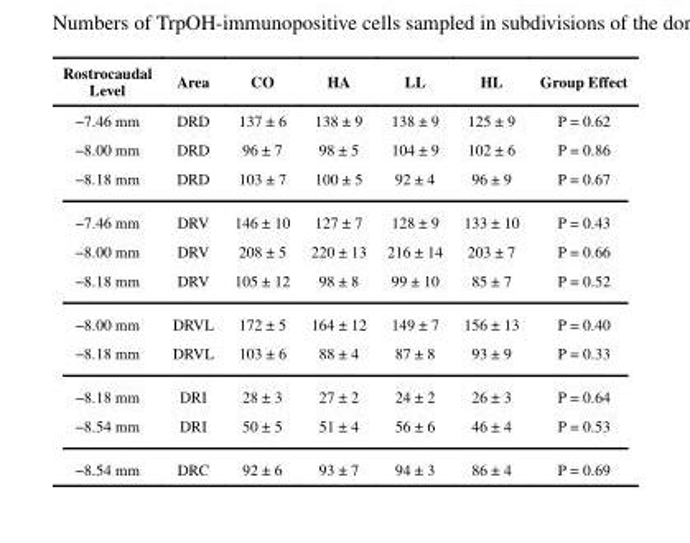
<table><thead><tr><td>Rostrocaudal Level</td><td>Area</td><td>CO</td><td>HA</td><td>LL</td><td>HL</td><td>Group Effect</td></tr></thead><tbody><tr><td>−7.46 mm</td><td>DRD</td><td>137 ± 6</td><td>138 ± 9</td><td>138 ± 9</td><td>125 ± 9</td><td>P = 0.62</td></tr><tr><td>−8.00 mm</td><td>DRD</td><td>96 ± 7</td><td>98 ± 5</td><td>104 ± 9</td><td>102 ± 6</td><td>P = 0.86</td></tr><tr><td>−8.18 mm</td><td>DRD</td><td>103 ± 7</td><td>100 ± 5</td><td>92 ± 4</td><td>96 ± 9</td><td>P = 0.67</td></tr><tr><td>−7.46 mm</td><td>DRV</td><td>146 ± 10</td><td>127 ± 7</td><td>128 ± 9</td><td>133 ± 10</td><td>P = 0.43</td></tr><tr><td>−8.00 mm</td><td>DRV</td><td>208 ± 5</td><td>220 ± 13</td><td>216 ± 14</td><td>203 ± 7</td><td>P = 0.66</td></tr><tr><td>−8.18 mm</td><td>DRV</td><td>105 ± 12</td><td>98 ± 8</td><td>99 ± 10</td><td>85 ± 7</td><td>P = 0.52</td></tr><tr><td>−8.00 mm</td><td>DRVL</td><td>172 ± 5</td><td>164 ± 12</td><td>149 ± 7</td><td>156 ± 13</td><td>P = 0.40</td></tr><tr><td>−8.18 mm</td><td>DRVL</td><td>103 ± 6</td><td>88 ± 4</td><td>87 ± 8</td><td>93 ± 9</td><td>P = 0.33</td></tr><tr><td>−8.18 mm</td><td>DRI</td><td>28 ± 3</td><td>27 ± 2</td><td>24 ± 2</td><td>26 ± 3</td><td>P = 0.64</td></tr><tr><td>−8.54 mm</td><td>DRI</td><td>50 ± 5</td><td>51 ± 4</td><td>56 ± 6</td><td>46 ± 4</td><td>P = 0.53</td></tr><tr><td>−8.54 mm</td><td>DRC</td><td>92 ± 6</td><td>93 ± 7</td><td>94 ± 3</td><td>86 ± 4</td><td>P = 0.69</td></tr></tbody></table>